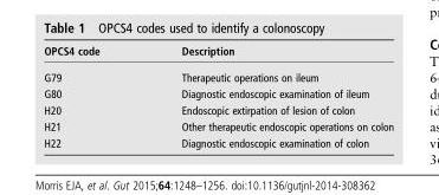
<table><thead><tr><td>OPCS4 code</td><td>Description</td></tr></thead><tbody><tr><td>G79</td><td>Therapeutic operations on ileum</td></tr><tr><td>G80</td><td>Diagnostic endoscopic examination of ileum</td></tr><tr><td>H20</td><td>Endoscopic extirpation of lesion of colon</td></tr><tr><td>H21</td><td>Other therapeutic endoscopic operations on colon</td></tr><tr><td>H22</td><td>Diagnostic endoscopic examination of colon</td></tr></tbody></table>